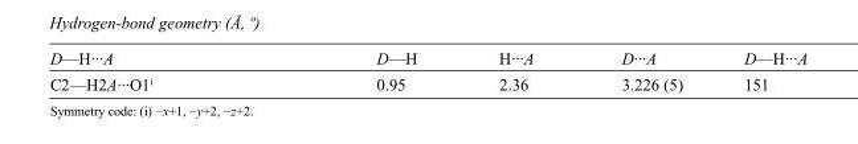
<table><tbody><tr><td>D—H···A</td><td>D—H</td><td>H···A</td><td>D···A</td><td>D—H···A</td></tr><tr><td>C2—H2A···O1<sup>i</sup></td><td>0.95</td><td>2.36</td><td>3.226 (5)</td><td>151</td></tr></tbody></table>